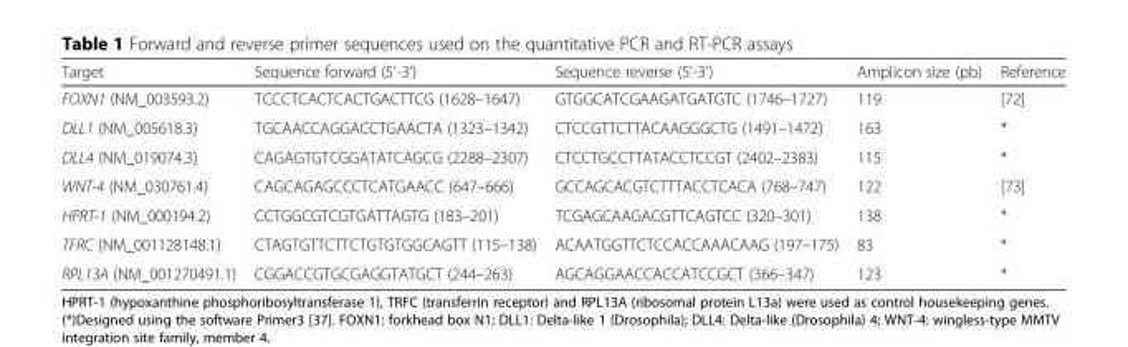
<table><thead><tr><td>Target</td><td>Sequence forward (5&#x27;-3&#x27;)</td><td>Sequence reverse (5&#x27;-3&#x27;)</td><td>Amplicon size (pb)</td><td>Reference</td></tr></thead><tbody><tr><td>FOXN1 (NM_003593.2)</td><td>TCCCTCACTCACTGACTTCG (1628–1647)</td><td>GTGGCATCGAAGATGATGTC (1746–1727)</td><td>119</td><td>[72]</td></tr><tr><td>DLL1 (NM_005618.3)</td><td>TGCAACCAGGACCTGAACTA (1323–1342)</td><td>CTCCGTTCTTACAAGGGCTG (1491–1472)</td><td>163</td><td>*</td></tr><tr><td>DLL4 (NM_019074.3)</td><td>CAGAGTGTCGGATATCAGCG (2288–2307)</td><td>CTCCTGCCTTATACCTCCGT (2402–2383)</td><td>115</td><td>*</td></tr><tr><td>WNT-4 (NM_030761.4)</td><td>CAGCAGAGCCCTCATGAACC (647–666)</td><td>GCCAGCACGTCTTTACCTCACA (768–747)</td><td>122</td><td>[73]</td></tr><tr><td>HPRT-1 (NM_000194.2)</td><td>CCTGGCGTCGTGATTAGTG (183–201)</td><td>TCGAGCAAGACGTTCAGTCC (320–301)</td><td>138</td><td>*</td></tr><tr><td>TFRC (NM_001128148.1)</td><td>CTAGTGTTCTTCTGTGTGGCAGTT (115–138)</td><td>ACAATGGTTCTCCACCAAACAAG (197–175)</td><td>83</td><td>*</td></tr><tr><td>RPL13A (NM_001270491.1)</td><td>CGGACCGTGCGAGGTATGCT (244–263)</td><td>AGCAGGAACCACCATCCGCT (366–347)</td><td>123</td><td>*</td></tr></tbody></table>